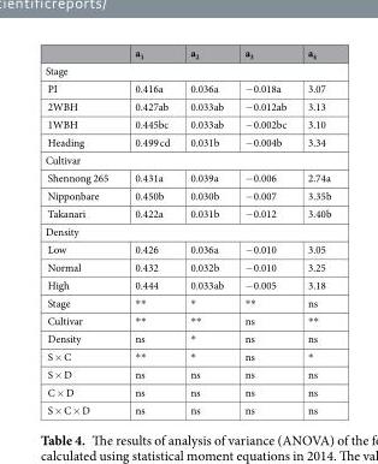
<table><thead><tr><td></td><td>a<sub>1</sub></td><td>a<sub>2</sub></td><td>a<sub>3</sub></td><td>a<sub>4</sub></td></tr></thead><tbody><tr><td colspan="5">Stage</td></tr><tr><td>PI</td><td>0.416a</td><td>0.036a</td><td>−0.018a</td><td>3.07</td></tr><tr><td>2WBH</td><td>0.427ab</td><td>0.033ab</td><td>−0.012ab</td><td>3.13</td></tr><tr><td>1WBH</td><td>0.445bc</td><td>0.033ab</td><td>−0.002bc</td><td>3.10</td></tr><tr><td>Heading</td><td>0.499 cd</td><td>0.031b</td><td>−0.004b</td><td>3.34</td></tr><tr><td colspan="5">Cultivar</td></tr><tr><td>Shennong 265</td><td>0.431a</td><td>0.039a</td><td>−0.006</td><td>2.74a</td></tr><tr><td>Nipponbare</td><td>0.450b</td><td>0.030b</td><td>−0.007</td><td>3.35b</td></tr><tr><td>Takanari</td><td>0.422a</td><td>0.031b</td><td>−0.012</td><td>3.40b</td></tr><tr><td colspan="5">Density</td></tr><tr><td>Low</td><td>0.426</td><td>0.036a</td><td>−0.010</td><td>3.05</td></tr><tr><td>Normal</td><td>0.432</td><td>0.032b</td><td>−0.010</td><td>3.25</td></tr><tr><td>High</td><td>0.444</td><td>0.033ab</td><td>−0.005</td><td>3.18</td></tr><tr><td>Stage</td><td>**</td><td>*</td><td>**</td><td>ns</td></tr><tr><td>Cultivar</td><td>**</td><td>**</td><td>ns</td><td>**</td></tr><tr><td>Density</td><td>ns</td><td>*</td><td>ns</td><td>ns</td></tr><tr><td>S × C</td><td>**</td><td>*</td><td>ns</td><td>*</td></tr><tr><td>S × D</td><td>ns</td><td>ns</td><td>ns</td><td>ns</td></tr><tr><td>C × D</td><td>ns</td><td>ns</td><td>ns</td><td>ns</td></tr><tr><td>S × C × D</td><td>ns</td><td>ns</td><td>ns</td><td>ns</td></tr></tbody></table>